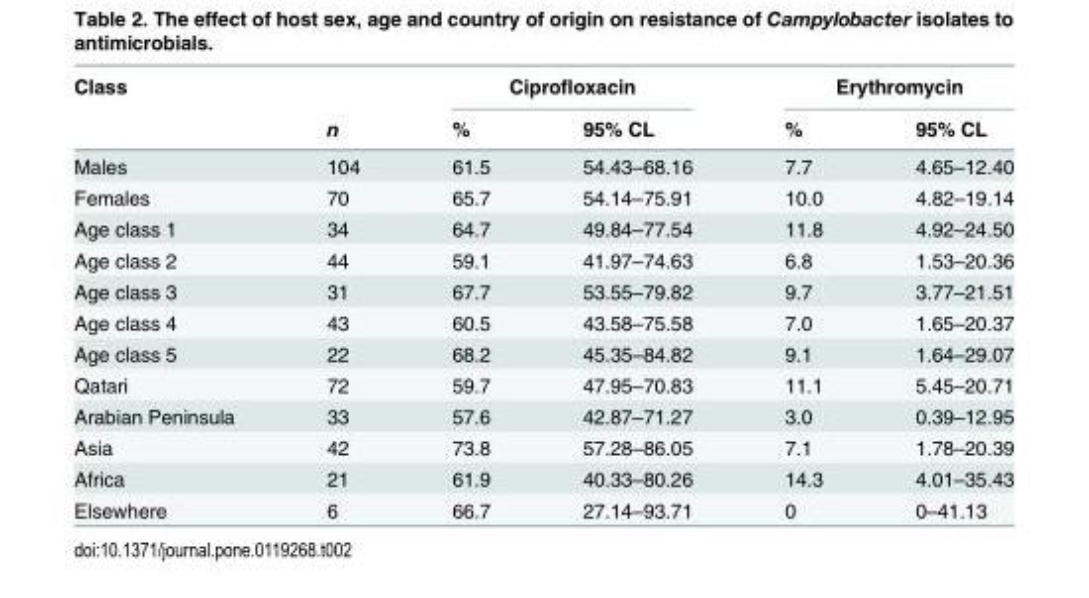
<table><thead><tr><td rowspan="2">Class</td><td rowspan="2">n</td><td colspan="2">Ciprofloxacin</td><td colspan="2">Erythromycin</td></tr><tr><td>%</td><td>95% CL</td><td>%</td><td>95% CL</td></tr></thead><tbody><tr><td>Males</td><td>104</td><td>61.5</td><td>54.43–68.16</td><td>7.7</td><td>4.65–12.40</td></tr><tr><td>Females</td><td>70</td><td>65.7</td><td>54.14–75.91</td><td>10.0</td><td>4.82–19.14</td></tr><tr><td>Age class 1</td><td>34</td><td>64.7</td><td>49.84–77.54</td><td>11.8</td><td>4.92–24.50</td></tr><tr><td>Age class 2</td><td>44</td><td>59.1</td><td>41.97–74.63</td><td>6.8</td><td>1.53–20.36</td></tr><tr><td>Age class 3</td><td>31</td><td>67.7</td><td>53.55–79.82</td><td>9.7</td><td>3.77–21.51</td></tr><tr><td>Age class 4</td><td>43</td><td>60.5</td><td>43.58–75.58</td><td>7.0</td><td>1.65–20.37</td></tr><tr><td>Age class 5</td><td>22</td><td>68.2</td><td>45.35–84.82</td><td>9.1</td><td>1.64–29.07</td></tr><tr><td>Qatari</td><td>72</td><td>59.7</td><td>47.95–70.83</td><td>11.1</td><td>5.45–20.71</td></tr><tr><td>Arabian Peninsula</td><td>33</td><td>57.6</td><td>42.87–71.27</td><td>3.0</td><td>0.39–12.95</td></tr><tr><td>Asia</td><td>42</td><td>73.8</td><td>57.28–86.05</td><td>7.1</td><td>1.78–20.39</td></tr><tr><td>Africa</td><td>21</td><td>61.9</td><td>40.33–80.26</td><td>14.3</td><td>4.01–35.43</td></tr><tr><td>Elsewhere</td><td>6</td><td>66.7</td><td>27.14–93.71</td><td>0</td><td>0–41.13</td></tr></tbody></table>